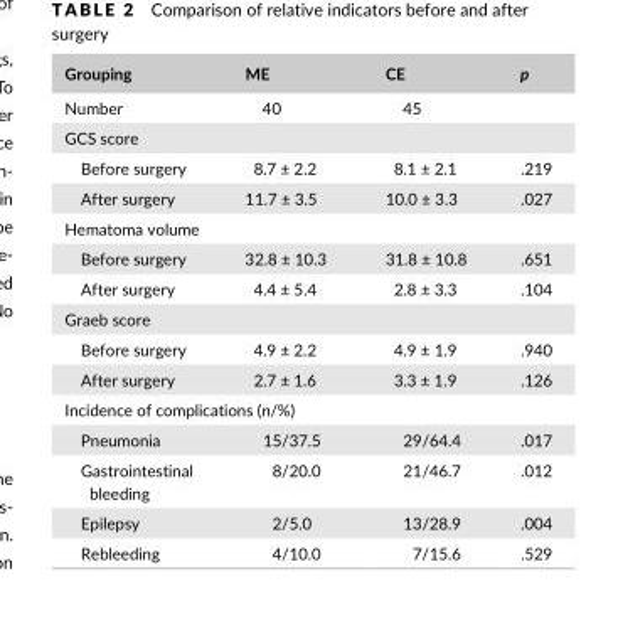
<table><thead><tr><td>Grouping</td><td>ME</td><td>CE</td><td>p</td></tr></thead><tbody><tr><td>Number</td><td>40</td><td>45</td><td></td></tr><tr><td colspan="4">GCS score</td></tr><tr><td>Before surgery</td><td>8.7 ± 2.2</td><td>8.1 ± 2.1</td><td>.219</td></tr><tr><td>After surgery</td><td>11.7 ± 3.5</td><td>10.0 ± 3.3</td><td>.027</td></tr><tr><td colspan="4">Hematoma volume</td></tr><tr><td>Before surgery</td><td>32.8 ± 10.3</td><td>31.8 ± 10.8</td><td>.651</td></tr><tr><td>After surgery</td><td>4.4 ± 5.4</td><td>2.8 ± 3.3</td><td>.104</td></tr><tr><td colspan="4">Graeb score</td></tr><tr><td>Before surgery</td><td>4.9 ± 2.2</td><td>4.9 ± 1.9</td><td>.940</td></tr><tr><td>After surgery</td><td>2.7 ± 1.6</td><td>3.3 ± 1.9</td><td>.126</td></tr><tr><td colspan="4">Incidence of complications (n/%)</td></tr><tr><td>Pneumonia</td><td>15/37.5</td><td>29/64.4</td><td>.017</td></tr><tr><td>Gastrointestinal bleeding</td><td>8/20.0</td><td>21/46.7</td><td>.012</td></tr><tr><td>Epilepsy</td><td>2/5.0</td><td>13/28.9</td><td>.004</td></tr><tr><td>Rebleeding</td><td>4/10.0</td><td>7/15.6</td><td>.529</td></tr></tbody></table>